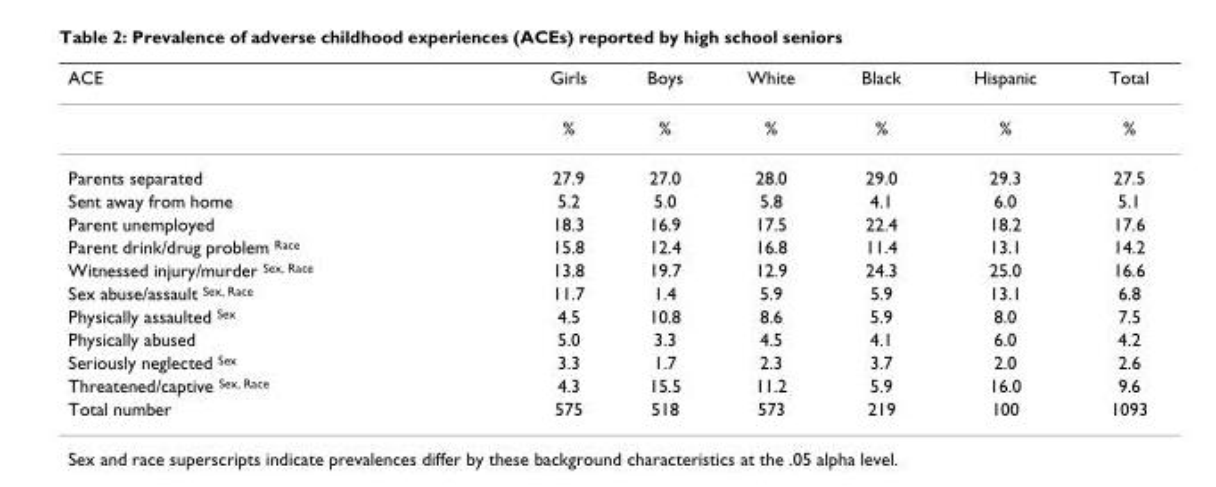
<table><thead><tr><td>ACE</td><td>Girls</td><td>Boys</td><td>White</td><td>Black</td><td>Hispanic</td><td>Total</td></tr></thead><tbody><tr><td></td><td>%</td><td>%</td><td>%</td><td>%</td><td>%</td><td>%</td></tr><tr><td>Parents separated</td><td>27.9</td><td>27.0</td><td>28.0</td><td>29.0</td><td>29.3</td><td>27.5</td></tr><tr><td>Sent away from home</td><td>5.2</td><td>5.0</td><td>5.8</td><td>4.1</td><td>6.0</td><td>5.1</td></tr><tr><td>Parent unemployed</td><td>18.3</td><td>16.9</td><td>17.5</td><td>22.4</td><td>18.2</td><td>17.6</td></tr><tr><td>Parent drink/drug problem <sup>Race</sup></td><td>15.8</td><td>12.4</td><td>16.8</td><td>11.4</td><td>13.1</td><td>14.2</td></tr><tr><td>Witnessed injury/murder <sup>Sex, Race</sup></td><td>13.8</td><td>19.7</td><td>12.9</td><td>24.3</td><td>25.0</td><td>16.6</td></tr><tr><td>Sex abuse/assault <sup>Sex, Race</sup></td><td>11.7</td><td>1.4</td><td>5.9</td><td>5.9</td><td>13.1</td><td>6.8</td></tr><tr><td>Physically assaulted <sup>Sex</sup></td><td>4.5</td><td>10.8</td><td>8.6</td><td>5.9</td><td>8.0</td><td>7.5</td></tr><tr><td>Physically abused</td><td>5.0</td><td>3.3</td><td>4.5</td><td>4.1</td><td>6.0</td><td>4.2</td></tr><tr><td>Seriously neglected <sup>Sex</sup></td><td>3.3</td><td>1.7</td><td>2.3</td><td>3.7</td><td>2.0</td><td>2.6</td></tr><tr><td>Threatened/captive <sup>Sex, Race</sup></td><td>4.3</td><td>15.5</td><td>11.2</td><td>5.9</td><td>16.0</td><td>9.6</td></tr><tr><td>Total number</td><td>575</td><td>518</td><td>573</td><td>219</td><td>100</td><td>1093</td></tr></tbody></table>